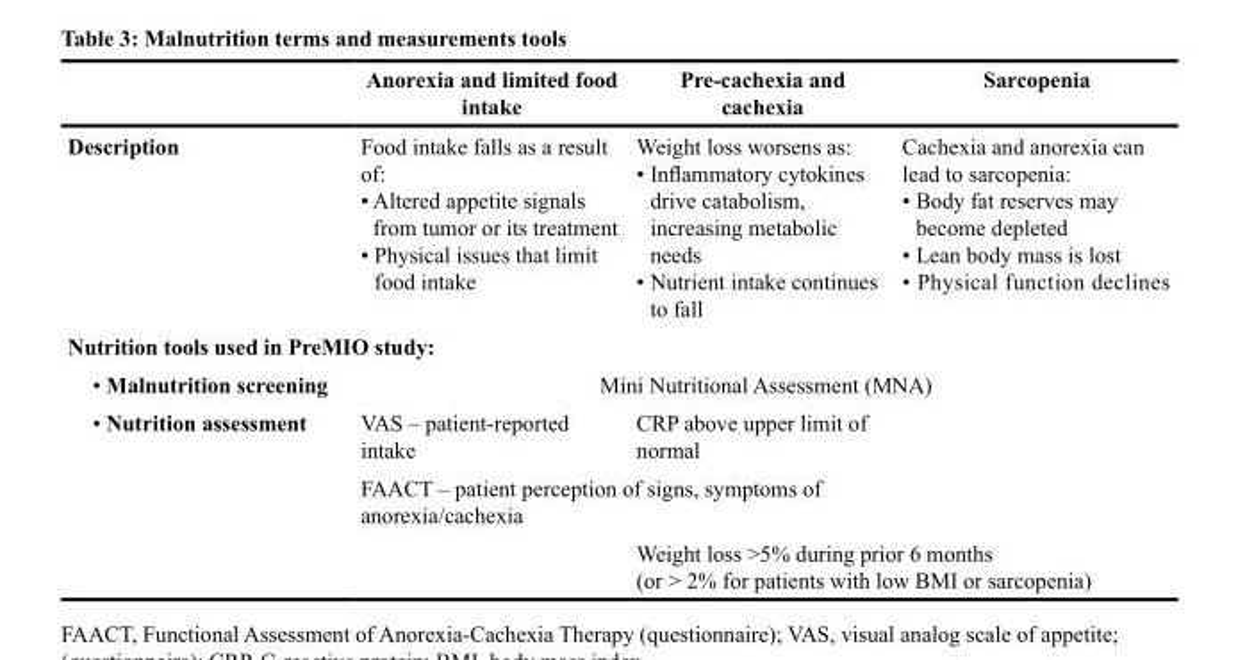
<table><thead><tr><td></td><td>Anorexia and limited food intake</td><td>Pre-cachexia and cachexia</td><td>Sarcopenia</td></tr></thead><tbody><tr><td>Description</td><td>Food intake falls as a result of: • Altered appetite signals from tumor or its treatment • Physical issues that limit food intake</td><td>Weight loss worsens as: • Inflammatory cytokines drive catabolism, increasing metabolic needs • Nutrient intake continues to fall</td><td>Cachexia and anorexia can lead to sarcopenia: • Body fat reserves may become depleted • Lean body mass is lost • Physical function declines</td></tr><tr><td colspan="4">Nutrition tools used in PreMIO study:</td></tr><tr><td>• Malnutrition screening</td><td colspan="3">Mini Nutritional Assessment (MNA)</td></tr><tr><td rowspan="3">• Nutrition assessment</td><td>VAS – patient-reported intake</td><td>CRP above upper limit of normal</td><td></td></tr><tr><td colspan="2">FAACT – patient perception of signs, symptoms of anorexia/cachexia</td><td></td></tr><tr><td></td><td colspan="2">Weight loss &gt;5% during prior 6 months (or &gt; 2% for patients with low BMI or sarcopenia)</td></tr></tbody></table>